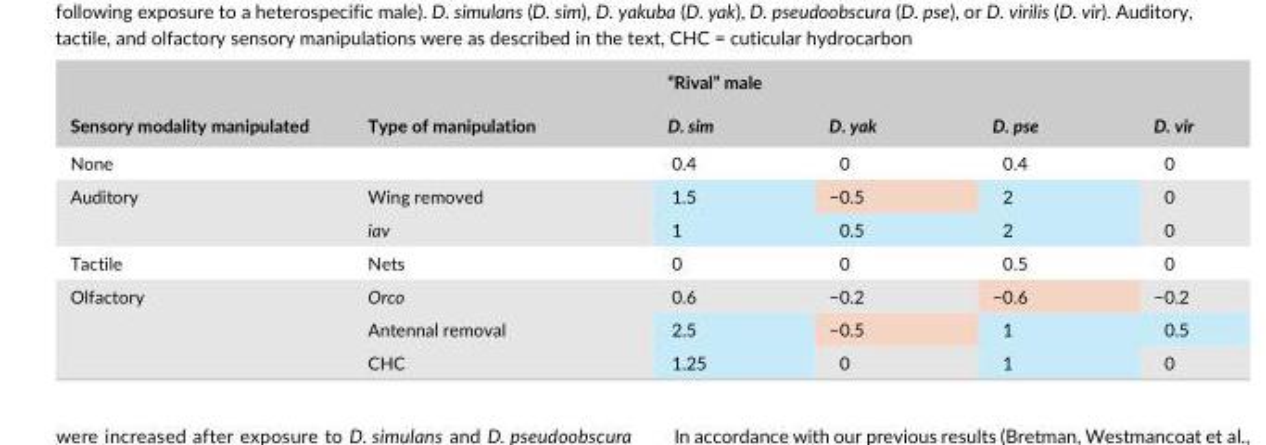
<table><thead><tr><td rowspan="2">Sensory modality manipulated</td><td rowspan="2">Type of manipulation</td><td colspan="4">“Rival” male</td></tr><tr><td>D. sim</td><td>D. yak</td><td>D. pse</td><td>D. vir</td></tr></thead><tbody><tr><td>None</td><td></td><td>0.4</td><td>0</td><td>0.4</td><td>0</td></tr><tr><td rowspan="2">Auditory</td><td>Wing removed</td><td>1.5</td><td>−0.5</td><td>2</td><td>0</td></tr><tr><td>iav</td><td>1</td><td>0.5</td><td>2</td><td>0</td></tr><tr><td>Tactile</td><td>Nets</td><td>0</td><td>0</td><td>0.5</td><td>0</td></tr><tr><td rowspan="3">Olfactory</td><td>Orco</td><td>0.6</td><td>−0.2</td><td>−0.6</td><td>−0.2</td></tr><tr><td>Antennal removal</td><td>2.5</td><td>−0.5</td><td>1</td><td>0.5</td></tr><tr><td>CHC</td><td>1.25</td><td>0</td><td>1</td><td>0</td></tr></tbody></table>